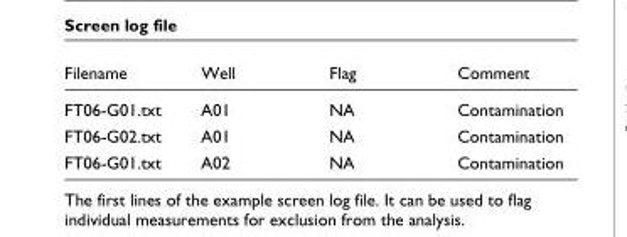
<table><thead><tr><td>Filename</td><td>Well</td><td>Flag</td><td>Comment</td></tr></thead><tbody><tr><td>FT06-G01.txt</td><td>A01</td><td>NA</td><td>Contamination</td></tr><tr><td>FT06-G02.txt</td><td>A01</td><td>NA</td><td>Contamination</td></tr><tr><td>FT06-G01.txt</td><td>A02</td><td>NA</td><td>Contamination</td></tr></tbody></table>